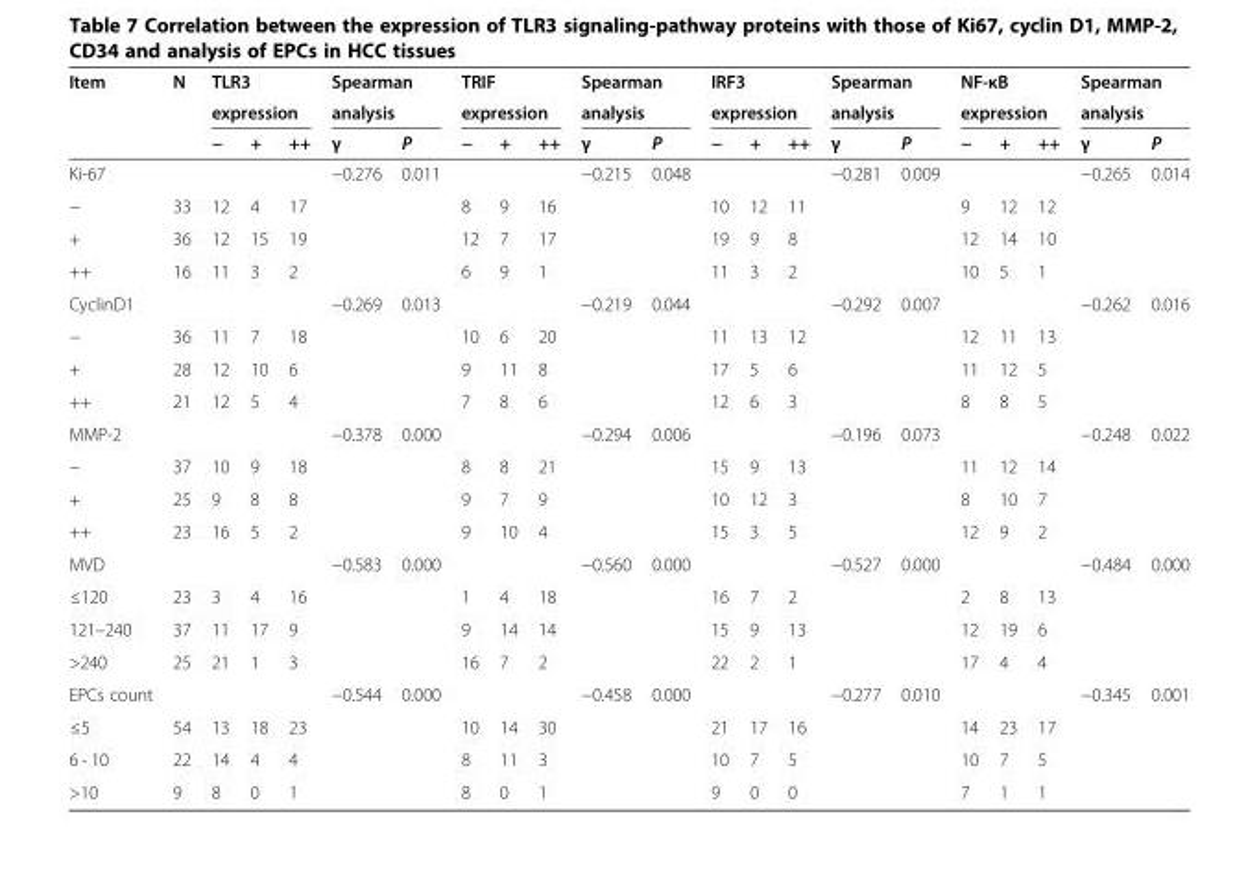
<table><thead><tr><td rowspan="3">Item</td><td rowspan="3">N</td><td rowspan="2" colspan="3">TLR3 expression</td><td rowspan="2" colspan="2">Spearman analysis</td><td rowspan="2" colspan="3">TRIF expression</td><td rowspan="2" colspan="2">Spearman analysis</td><td rowspan="2" colspan="3">IRF3 expression</td><td rowspan="2" colspan="2">Spearman analysis</td><td rowspan="2" colspan="3">NF-κB expression</td><td rowspan="2" colspan="2">Spearman analysis</td></tr><tr></tr><tr><td>−</td><td>+</td><td>++</td><td>γ</td><td>P</td><td>−</td><td>+</td><td>++</td><td>γ</td><td>P</td><td>−</td><td>+</td><td>++</td><td>γ</td><td>P</td><td>−</td><td>+</td><td>++</td><td>γ</td><td>P</td></tr></thead><tbody><tr><td>Ki-67</td><td></td><td></td><td></td><td></td><td>−0.276</td><td>0.011</td><td></td><td></td><td></td><td>−0.215</td><td>0.048</td><td></td><td></td><td></td><td>−0.281</td><td>0.009</td><td></td><td></td><td></td><td>−0.265</td><td>0.014</td></tr><tr><td>−</td><td>33</td><td>12</td><td>4</td><td>17</td><td></td><td></td><td>8</td><td>9</td><td>16</td><td></td><td></td><td>10</td><td>12</td><td>11</td><td></td><td></td><td>9</td><td>12</td><td>12</td><td></td><td></td></tr><tr><td>+</td><td>36</td><td>12</td><td>15</td><td>19</td><td></td><td></td><td>12</td><td>7</td><td>17</td><td></td><td></td><td>19</td><td>9</td><td>8</td><td></td><td></td><td>12</td><td>14</td><td>10</td><td></td><td></td></tr><tr><td>++</td><td>16</td><td>11</td><td>3</td><td>2</td><td></td><td></td><td>6</td><td>9</td><td>1</td><td></td><td></td><td>11</td><td>3</td><td>2</td><td></td><td></td><td>10</td><td>5</td><td>1</td><td></td><td></td></tr><tr><td>CyclinD1</td><td></td><td></td><td></td><td></td><td>−0.269</td><td>0.013</td><td></td><td></td><td></td><td>−0.219</td><td>0.044</td><td></td><td></td><td></td><td>−0.292</td><td>0.007</td><td></td><td></td><td></td><td>−0.262</td><td>0.016</td></tr><tr><td>−</td><td>36</td><td>11</td><td>7</td><td>18</td><td></td><td></td><td>10</td><td>6</td><td>20</td><td></td><td></td><td>11</td><td>13</td><td>12</td><td></td><td></td><td>12</td><td>11</td><td>13</td><td></td><td></td></tr><tr><td>+</td><td>28</td><td>12</td><td>10</td><td>6</td><td></td><td></td><td>9</td><td>11</td><td>8</td><td></td><td></td><td>17</td><td>5</td><td>6</td><td></td><td></td><td>11</td><td>12</td><td>5</td><td></td><td></td></tr><tr><td>++</td><td>21</td><td>12</td><td>5</td><td>4</td><td></td><td></td><td>7</td><td>8</td><td>6</td><td></td><td></td><td>12</td><td>6</td><td>3</td><td></td><td></td><td>8</td><td>8</td><td>5</td><td></td><td></td></tr><tr><td>MMP-2</td><td></td><td></td><td></td><td></td><td>−0.378</td><td>0.000</td><td></td><td></td><td></td><td>−0.294</td><td>0.006</td><td></td><td></td><td></td><td>−0.196</td><td>0.073</td><td></td><td></td><td></td><td>−0.248</td><td>0.022</td></tr><tr><td>−</td><td>37</td><td>10</td><td>9</td><td>18</td><td></td><td></td><td>8</td><td>8</td><td>21</td><td></td><td></td><td>15</td><td>9</td><td>13</td><td></td><td></td><td>11</td><td>12</td><td>14</td><td></td><td></td></tr><tr><td>+</td><td>25</td><td>9</td><td>8</td><td>8</td><td></td><td></td><td>9</td><td>7</td><td>9</td><td></td><td></td><td>10</td><td>12</td><td>3</td><td></td><td></td><td>8</td><td>10</td><td>7</td><td></td><td></td></tr><tr><td>++</td><td>23</td><td>16</td><td>5</td><td>2</td><td></td><td></td><td>9</td><td>10</td><td>4</td><td></td><td></td><td>15</td><td>3</td><td>5</td><td></td><td></td><td>12</td><td>9</td><td>2</td><td></td><td></td></tr><tr><td>MVD</td><td></td><td></td><td></td><td></td><td>−0.583</td><td>0.000</td><td></td><td></td><td></td><td>−0.560</td><td>0.000</td><td></td><td></td><td></td><td>−0.527</td><td>0.000</td><td></td><td></td><td></td><td>−0.484</td><td>0.000</td></tr><tr><td>≤120</td><td>23</td><td>3</td><td>4</td><td>16</td><td></td><td></td><td>1</td><td>4</td><td>18</td><td></td><td></td><td>16</td><td>7</td><td>2</td><td></td><td></td><td>2</td><td>8</td><td>13</td><td></td><td></td></tr><tr><td>121–240</td><td>37</td><td>11</td><td>17</td><td>9</td><td></td><td></td><td>9</td><td>14</td><td>14</td><td></td><td></td><td>15</td><td>9</td><td>13</td><td></td><td></td><td>12</td><td>19</td><td>6</td><td></td><td></td></tr><tr><td>&gt;240</td><td>25</td><td>21</td><td>1</td><td>3</td><td></td><td></td><td>16</td><td>7</td><td>2</td><td></td><td></td><td>22</td><td>2</td><td>1</td><td></td><td></td><td>17</td><td>4</td><td>4</td><td></td><td></td></tr><tr><td>EPCs count</td><td></td><td></td><td></td><td></td><td>−0.544</td><td>0.000</td><td></td><td></td><td></td><td>−0.458</td><td>0.000</td><td></td><td></td><td></td><td>−0.277</td><td>0.010</td><td></td><td></td><td></td><td>−0.345</td><td>0.001</td></tr><tr><td>≤5</td><td>54</td><td>13</td><td>18</td><td>23</td><td></td><td></td><td>10</td><td>14</td><td>30</td><td></td><td></td><td>21</td><td>17</td><td>16</td><td></td><td></td><td>14</td><td>23</td><td>17</td><td></td><td></td></tr><tr><td>6 - 10</td><td>22</td><td>14</td><td>4</td><td>4</td><td></td><td></td><td>8</td><td>11</td><td>3</td><td></td><td></td><td>10</td><td>7</td><td>5</td><td></td><td></td><td>10</td><td>7</td><td>5</td><td></td><td></td></tr><tr><td>&gt;10</td><td>9</td><td>8</td><td>0</td><td>1</td><td></td><td></td><td>8</td><td>0</td><td>1</td><td></td><td></td><td>9</td><td>0</td><td>0</td><td></td><td></td><td>7</td><td>1</td><td>1</td><td></td><td></td></tr></tbody></table>